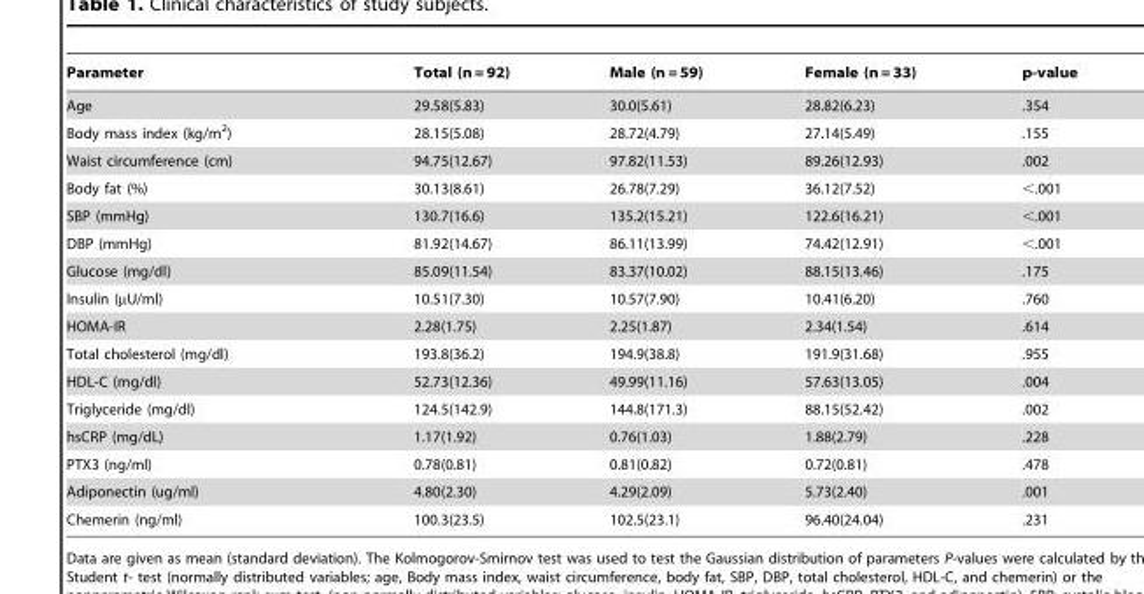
<table><thead><tr><td>Parameter</td><td>Total (n = 92)</td><td>Male (n = 59)</td><td>Female (n = 33)</td><td>p-value</td></tr></thead><tbody><tr><td>Age</td><td>29.58(5.83)</td><td>30.0(5.61)</td><td>28.82(6.23)</td><td>.354</td></tr><tr><td>Body mass index (kg/m<sup>2</sup>)</td><td>28.15(5.08)</td><td>28.72(4.79)</td><td>27.14(5.49)</td><td>.155</td></tr><tr><td>Waist circumference (cm)</td><td>94.75(12.67)</td><td>97.82(11.53)</td><td>89.26(12.93)</td><td>.002</td></tr><tr><td>Body fat (%)</td><td>30.13(8.61)</td><td>26.78(7.29)</td><td>36.12(7.52)</td><td>&lt;.001</td></tr><tr><td>SBP (mmHg)</td><td>130.7(16.6)</td><td>135.2(15.21)</td><td>122.6(16.21)</td><td>&lt;.001</td></tr><tr><td>DBP (mmHg)</td><td>81.92(14.67)</td><td>86.11(13.99)</td><td>74.42(12.91)</td><td>&lt;.001</td></tr><tr><td>Glucose (mg/dl)</td><td>85.09(11.54)</td><td>83.37(10.02)</td><td>88.15(13.46)</td><td>.175</td></tr><tr><td>Insulin (µU/ml)</td><td>10.51(7.30)</td><td>10.57(7.90)</td><td>10.41(6.20)</td><td>.760</td></tr><tr><td>HOMA-IR</td><td>2.28(1.75)</td><td>2.25(1.87)</td><td>2.34(1.54)</td><td>.614</td></tr><tr><td>Total cholesterol (mg/dl)</td><td>193.8(36.2)</td><td>194.9(38.8)</td><td>191.9(31.68)</td><td>.955</td></tr><tr><td>HDL-C (mg/dl)</td><td>52.73(12.36)</td><td>49.99(11.16)</td><td>57.63(13.05)</td><td>.004</td></tr><tr><td>Triglyceride (mg/dl)</td><td>124.5(142.9)</td><td>144.8(171.3)</td><td>88.15(52.42)</td><td>.002</td></tr><tr><td>hsCRP (mg/dL)</td><td>1.17(1.92)</td><td>0.76(1.03)</td><td>1.88(2.79)</td><td>.228</td></tr><tr><td>PTX3 (ng/ml)</td><td>0.78(0.81)</td><td>0.81(0.82)</td><td>0.72(0.81)</td><td>.478</td></tr><tr><td>Adiponectin (ug/ml)</td><td>4.80(2.30)</td><td>4.29(2.09)</td><td>5.73(2.40)</td><td>.001</td></tr><tr><td>Chemerin (ng/ml)</td><td>100.3(23.5)</td><td>102.5(23.1)</td><td>96.40(24.04)</td><td>.231</td></tr></tbody></table>